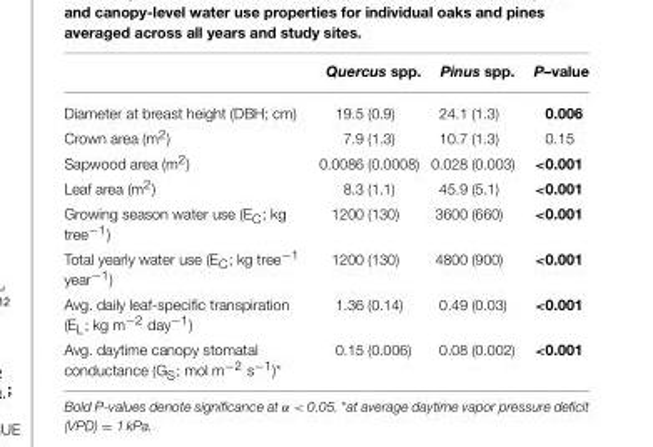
<table><thead><tr><td></td><td>Quercus spp.</td><td>Pinus spp.</td><td>P–value</td></tr></thead><tbody><tr><td>Diameter at breast height (DBH; cm)</td><td>19.5 (0.9)</td><td>24.1 (1.3)</td><td>0.006</td></tr><tr><td>Crown area (m<sup>2</sup>)</td><td>7.9 (1.3)</td><td>10.7 (1.3)</td><td>0.15</td></tr><tr><td>Sapwood area (m<sup>2</sup>)</td><td>0.0086 (0.0008)</td><td>0.028 (0.003)</td><td>&lt;0.001</td></tr><tr><td>Leaf area (m<sup>2</sup>)</td><td>8.3 (1.1)</td><td>45.9 (5.1)</td><td>&lt;0.001</td></tr><tr><td>Growing season water use (E<sub>C</sub>; kg tree<sup>−1</sup>)</td><td>1200 (130)</td><td>3600 (660)</td><td>&lt;0.001</td></tr><tr><td>Total yearly water use (E<sub>C</sub>; kg tree<sup>−1</sup> year<sup>−1</sup>)</td><td>1200 (130)</td><td>4800 (900)</td><td>&lt;0.001</td></tr><tr><td>Avg. daily leaf-specific transpiration (E<sub>L</sub>; kg m<sup>−2</sup> day<sup>−1</sup>)</td><td>1.36 (0.14)</td><td>0.49 (0.03)</td><td>&lt;0.001</td></tr><tr><td>Avg. daytime canopy stomatal conductance (G<sub>S</sub>; mol m<sup>−2</sup> s<sup>−1</sup>)*</td><td>0.15 (0.006)</td><td>0.08 (0.002)</td><td>&lt;0.001</td></tr></tbody></table>